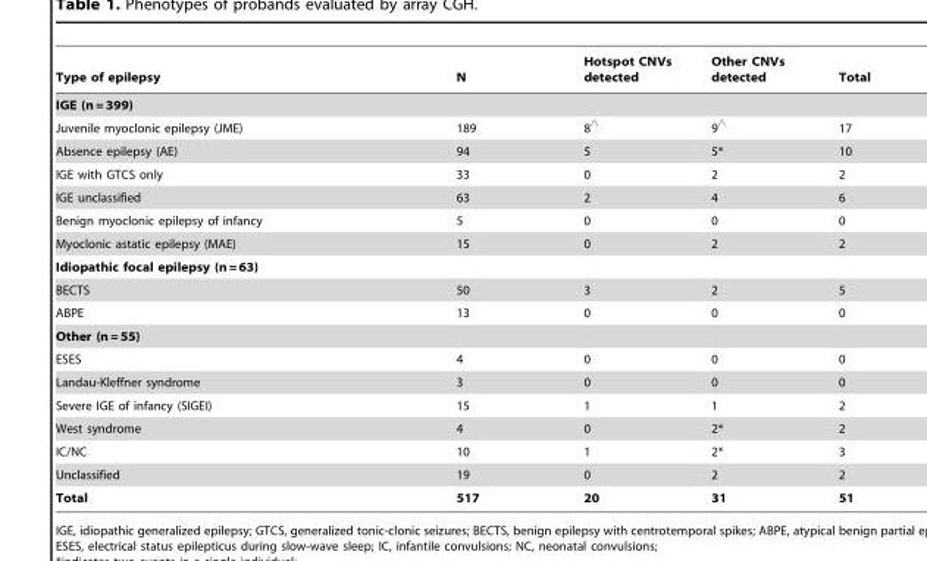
<table><thead><tr><td>Type of epilepsy</td><td>N</td><td>Hotspot CNVs detected</td><td>Other CNVs detected</td><td>Total</td></tr></thead><tbody><tr><td colspan="5">IGE (n = 399)</td></tr><tr><td>Juvenile myoclonic epilepsy (JME)</td><td>189</td><td>8‘</td><td>9‘</td><td>17</td></tr><tr><td>Absence epilepsy (AE)</td><td>94</td><td>5</td><td>5*</td><td>10</td></tr><tr><td>IGE with GTCS only</td><td>33</td><td>0</td><td>2</td><td>2</td></tr><tr><td>IGE unclassified</td><td>63</td><td>2</td><td>4</td><td>6</td></tr><tr><td>Benign myoclonic epilepsy of infancy</td><td>5</td><td>0</td><td>0</td><td>0</td></tr><tr><td>Myoclonic astatic epilepsy (MAE)</td><td>15</td><td>0</td><td>2</td><td>2</td></tr><tr><td colspan="5">Idiopathic focal epilepsy (n = 63)</td></tr><tr><td>BECTS</td><td>50</td><td>3</td><td>2</td><td>5</td></tr><tr><td>ABPE</td><td>13</td><td>0</td><td>0</td><td>0</td></tr><tr><td colspan="5">Other (n = 55)</td></tr><tr><td>ESES</td><td>4</td><td>0</td><td>0</td><td>0</td></tr><tr><td>Landau-Kleffner syndrome</td><td>3</td><td>0</td><td>0</td><td>0</td></tr><tr><td>Severe IGE of infancy (SIGEI)</td><td>15</td><td>1</td><td>1</td><td>2</td></tr><tr><td>West syndrome</td><td>4</td><td>0</td><td>2*</td><td>2</td></tr><tr><td>IC/NC</td><td>10</td><td>1</td><td>2*</td><td>3</td></tr><tr><td>Unclassified</td><td>19</td><td>0</td><td>2</td><td>2</td></tr><tr><td>Total</td><td>517</td><td>20</td><td>31</td><td>51</td></tr></tbody></table>